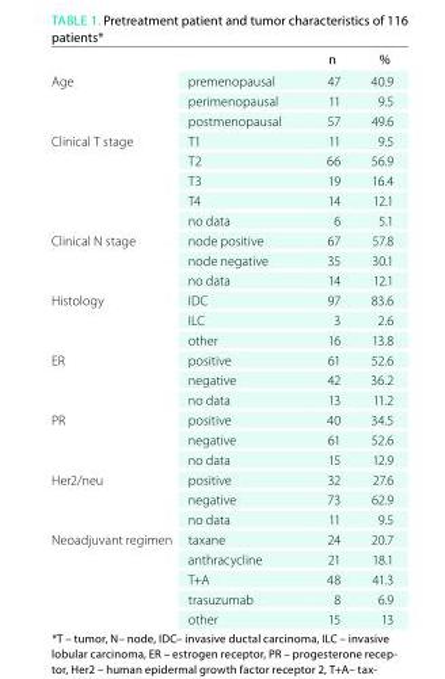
<table><thead><tr><td></td><td></td><td>n</td><td>%</td></tr></thead><tbody><tr><td rowspan="3">Age</td><td>premenopausal</td><td>47</td><td>40.9</td></tr><tr><td>perimenopausal</td><td>11</td><td>9.5</td></tr><tr><td>postmenopausal</td><td>57</td><td>49.6</td></tr><tr><td rowspan="5">Clinical T stage</td><td>T1</td><td>11</td><td>9.5</td></tr><tr><td>T2</td><td>66</td><td>56.9</td></tr><tr><td>T3</td><td>19</td><td>16.4</td></tr><tr><td>T4</td><td>14</td><td>12.1</td></tr><tr><td>no data</td><td>6</td><td>5.1</td></tr><tr><td rowspan="3">Clinical N stage</td><td>node positive</td><td>67</td><td>57.8</td></tr><tr><td>node negative</td><td>35</td><td>30.1</td></tr><tr><td>no data</td><td>14</td><td>12.1</td></tr><tr><td rowspan="3">Histology</td><td>IDC</td><td>97</td><td>83.6</td></tr><tr><td>ILC</td><td>3</td><td>2.6</td></tr><tr><td>other</td><td>16</td><td>13.8</td></tr><tr><td rowspan="3">ER</td><td>positive</td><td>61</td><td>52.6</td></tr><tr><td>negative</td><td>42</td><td>36.2</td></tr><tr><td>no data</td><td>13</td><td>11.2</td></tr><tr><td rowspan="3">PR</td><td>positive</td><td>40</td><td>34.5</td></tr><tr><td>negative</td><td>61</td><td>52.6</td></tr><tr><td>no data</td><td>15</td><td>12.9</td></tr><tr><td rowspan="3">Her2/neu</td><td>positive</td><td>32</td><td>27.6</td></tr><tr><td>negative</td><td>73</td><td>62.9</td></tr><tr><td>no data</td><td>11</td><td>9.5</td></tr><tr><td rowspan="5">Neoadjuvant regimen</td><td>taxane</td><td>24</td><td>20.7</td></tr><tr><td>anthracycline</td><td>21</td><td>18.1</td></tr><tr><td>T+A</td><td>48</td><td>41.3</td></tr><tr><td>trasuzumab</td><td>8</td><td>6.9</td></tr><tr><td>other</td><td>15</td><td>13</td></tr></tbody></table>